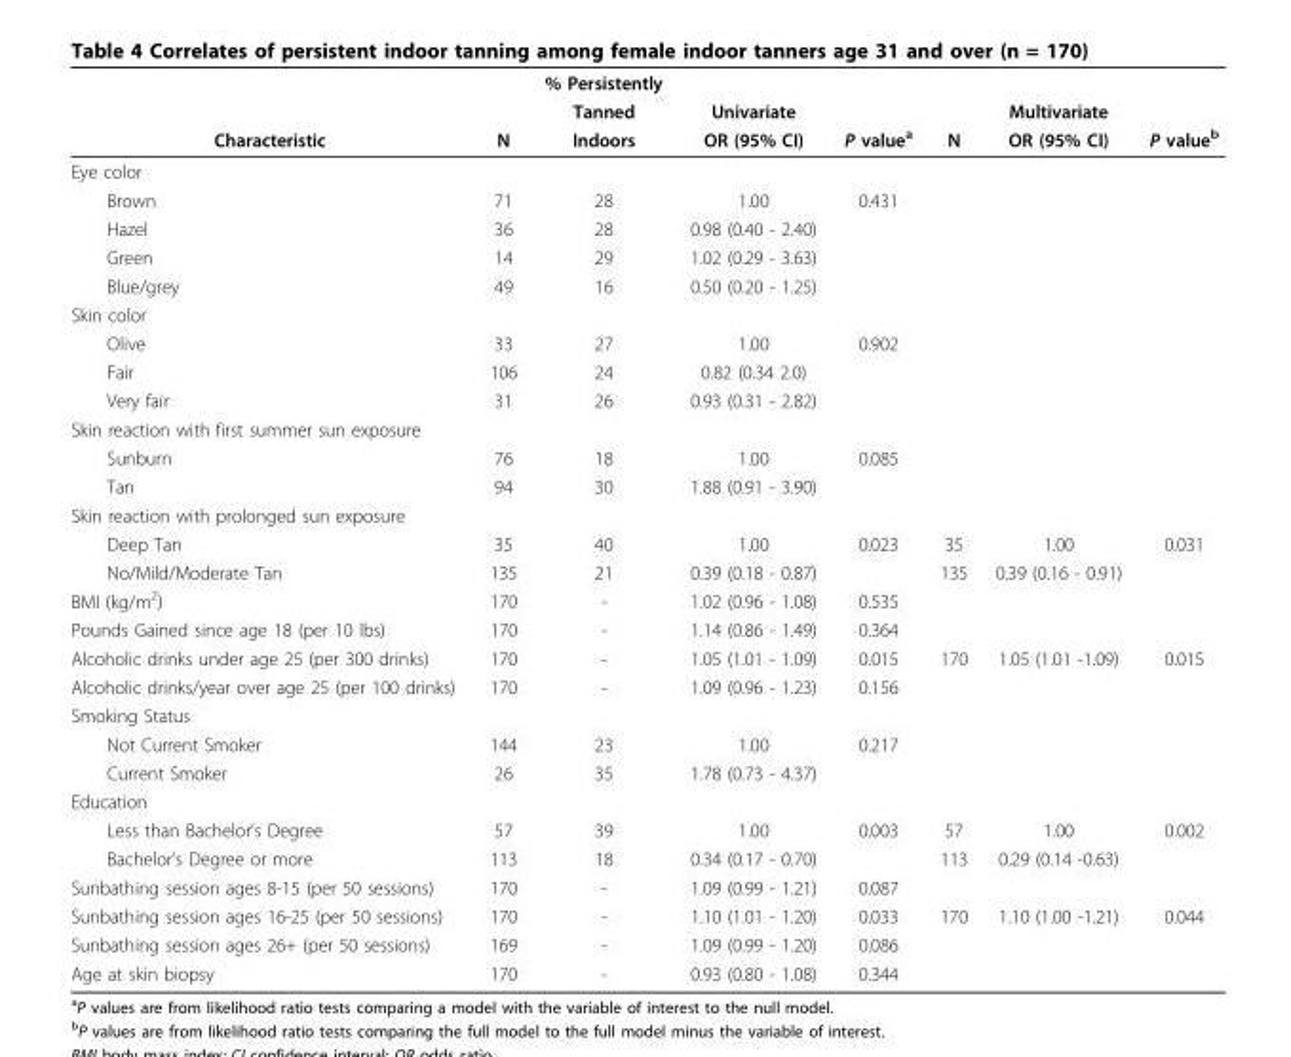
<table><thead><tr><td rowspan="3">Characteristic</td><td rowspan="3">N</td><td rowspan="3">% Persistently Tanned Indoors</td><td rowspan="3">Univariate OR (95% CI)</td><td rowspan="3">P value<sup>a</sup></td><td rowspan="3">N</td><td rowspan="3">Multivariate OR (95% CI)</td><td rowspan="3">P value<sup>b</sup></td></tr><tr></tr><tr></tr></thead><tbody><tr><td colspan="8">Eye color</td></tr><tr><td>Brown</td><td>71</td><td>28</td><td>1.00</td><td>0.431</td><td></td><td></td><td></td></tr><tr><td>Hazel</td><td>36</td><td>28</td><td>0.98 (0.40 - 2.40)</td><td></td><td></td><td></td><td></td></tr><tr><td>Green</td><td>14</td><td>29</td><td>1.02 (0.29 - 3.63)</td><td></td><td></td><td></td><td></td></tr><tr><td>Blue/grey</td><td>49</td><td>16</td><td>0.50 (0.20 - 1.25)</td><td></td><td></td><td></td><td></td></tr><tr><td colspan="8">Skin color</td></tr><tr><td>Olive</td><td>33</td><td>27</td><td>1.00</td><td>0.902</td><td></td><td></td><td></td></tr><tr><td>Fair</td><td>106</td><td>24</td><td>0.82 (0.34 2.0)</td><td></td><td></td><td></td><td></td></tr><tr><td>Very fair</td><td>31</td><td>26</td><td>0.93 (0.31 - 2.82)</td><td></td><td></td><td></td><td></td></tr><tr><td colspan="8">Skin reaction with first summer sun exposure</td></tr><tr><td>Sunburn</td><td>76</td><td>18</td><td>1.00</td><td>0.085</td><td></td><td></td><td></td></tr><tr><td>Tan</td><td>94</td><td>30</td><td>1.88 (0.91 - 3.90)</td><td></td><td></td><td></td><td></td></tr><tr><td colspan="8">Skin reaction with prolonged sun exposure</td></tr><tr><td>Deep Tan</td><td>35</td><td>40</td><td>1.00</td><td>0.023</td><td>35</td><td>1.00</td><td>0.031</td></tr><tr><td>No/Mild/Moderate Tan</td><td>135</td><td>21</td><td>0.39 (0.18 - 0.87)</td><td></td><td>135</td><td>0.39 (0.16 - 0.91)</td><td></td></tr><tr><td>BMI (kg/m<sup>2</sup>)</td><td>170</td><td>-</td><td>1.02 (0.96 - 1.08)</td><td>0.535</td><td></td><td></td><td></td></tr><tr><td>Pounds Gained since age 18 (per 10 lbs)</td><td>170</td><td>-</td><td>1.14 (0.86 - 1.49)</td><td>0.364</td><td></td><td></td><td></td></tr><tr><td>Alcoholic drinks under age 25 (per 300 drinks)</td><td>170</td><td>-</td><td>1.05 (1.01 - 1.09)</td><td>0.015</td><td>170</td><td>1.05 (1.01 -1.09)</td><td>0.015</td></tr><tr><td>Alcoholic drinks/year over age 25 (per 100 drinks)</td><td>170</td><td>-</td><td>1.09 (0.96 - 1.23)</td><td>0.156</td><td></td><td></td><td></td></tr><tr><td colspan="8">Smoking Status</td></tr><tr><td>Not Current Smoker</td><td>144</td><td>23</td><td>1.00</td><td>0.217</td><td></td><td></td><td></td></tr><tr><td>Current Smoker</td><td>26</td><td>35</td><td>1.78 (0.73 - 4.37)</td><td></td><td></td><td></td><td></td></tr><tr><td colspan="8">Education</td></tr><tr><td>Less than Bachelor’s Degree</td><td>57</td><td>39</td><td>1.00</td><td>0.003</td><td>57</td><td>1.00</td><td>0.002</td></tr><tr><td>Bachelor’s Degree or more</td><td>113</td><td>18</td><td>0.34 (0.17 - 0.70)</td><td></td><td>113</td><td>0.29 (0.14 -0.63)</td><td></td></tr><tr><td>Sunbathing session ages 8-15 (per 50 sessions)</td><td>170</td><td>-</td><td>1.09 (0.99 - 1.21)</td><td>0.087</td><td></td><td></td><td></td></tr><tr><td>Sunbathing session ages 16-25 (per 50 sessions)</td><td>170</td><td>-</td><td>1.10 (1.01 - 1.20)</td><td>0.033</td><td>170</td><td>1.10 (1.00 -1.21)</td><td>0.044</td></tr><tr><td>Sunbathing session ages 26+ (per 50 sessions)</td><td>169</td><td>-</td><td>1.09 (0.99 - 1.20)</td><td>0.086</td><td></td><td></td><td></td></tr><tr><td>Age at skin biopsy</td><td>170</td><td>-</td><td>0.93 (0.80 - 1.08)</td><td>0.344</td><td></td><td></td><td></td></tr></tbody></table>